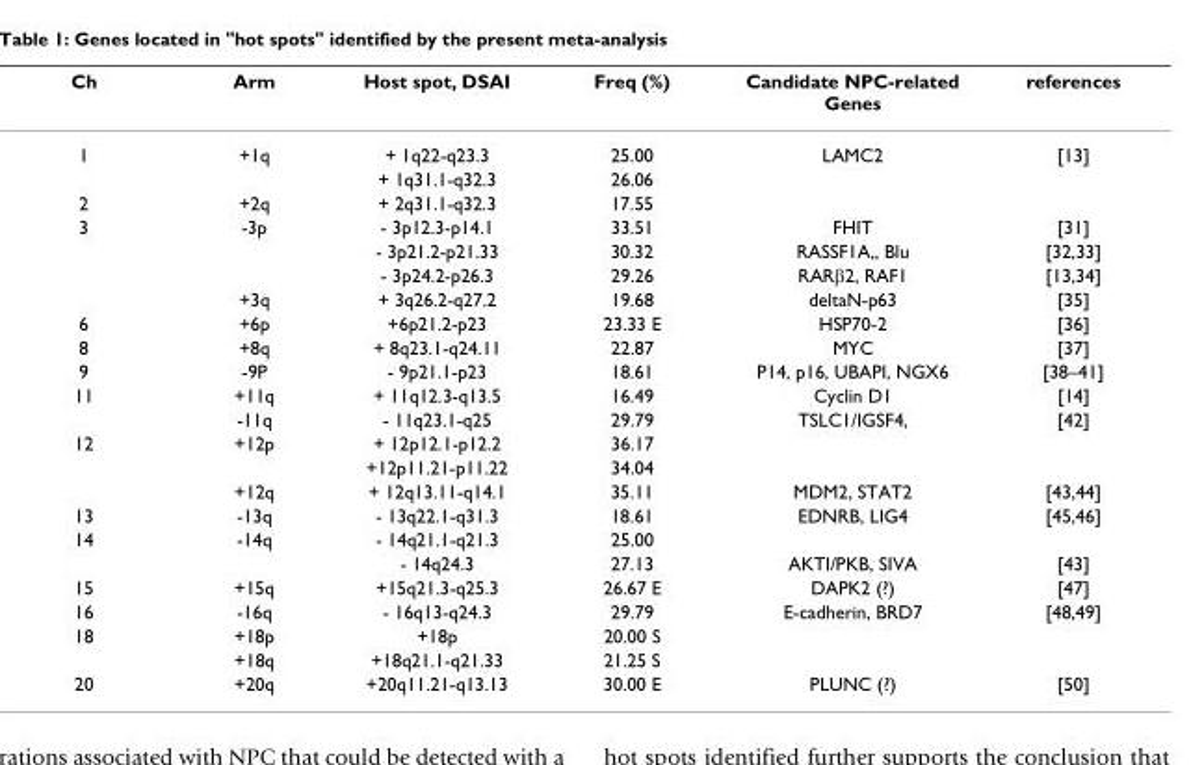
<table><thead><tr><td>Ch</td><td>Arm</td><td>Host spot, DSAI</td><td>Freq (%)</td><td>Candidate NPC-related Genes</td><td>references</td></tr></thead><tbody><tr><td rowspan="2">1</td><td>+1q</td><td>+ 1q22-q23.3</td><td>25.00</td><td>LAMC2</td><td>[13]</td></tr><tr><td></td><td>+ 1q31.1-q32.3</td><td>26.06</td><td></td><td></td></tr><tr><td>2</td><td>+2q</td><td>+ 2q31.1-q32.3</td><td>17.55</td><td></td><td></td></tr><tr><td rowspan="4">3</td><td>-3p</td><td>- 3p12.3-p14.1</td><td>33.51</td><td>FHIT</td><td>[31]</td></tr><tr><td></td><td>- 3p21.2-p21.33</td><td>30.32</td><td>RASSF1A,, Blu</td><td>[32,33]</td></tr><tr><td></td><td>- 3p24.2-p26.3</td><td>29.26</td><td>RARβ2, RAF1</td><td>[13,34]</td></tr><tr><td>+3q</td><td>+ 3q26.2-q27.2</td><td>19.68</td><td>deltaN-p63</td><td>[35]</td></tr><tr><td>6</td><td>+6p</td><td>+6p21.2-p23</td><td>23.33 E</td><td>HSP70-2</td><td>[36]</td></tr><tr><td>8</td><td>+8q</td><td>+ 8q23.1-q24.11</td><td>22.87</td><td>MYC</td><td>[37]</td></tr><tr><td>9</td><td>-9P</td><td>- 9p21.1-p23</td><td>18.61</td><td>P14, p16, UBAPI, NGX6</td><td>[38–41]</td></tr><tr><td rowspan="2">11</td><td>+11q</td><td>+ 11q12.3-q13.5</td><td>16.49</td><td>Cyclin D1</td><td>[14]</td></tr><tr><td>-11q</td><td>- 11q23.1-q25</td><td>29.79</td><td>TSLC1/IGSF4,</td><td>[42]</td></tr><tr><td rowspan="3">12</td><td>+12p</td><td>+ 12p12.1-p12.2</td><td>36.17</td><td></td><td></td></tr><tr><td></td><td>+12p11.21-p11.22</td><td>34.04</td><td></td><td></td></tr><tr><td>+12q</td><td>+ 12q13.11-q14.1</td><td>35.11</td><td>MDM2, STAT2</td><td>[43,44]</td></tr><tr><td>13</td><td>-13q</td><td>- 13q22.1-q31.3</td><td>18.61</td><td>EDNRB, LIG4</td><td>[45,46]</td></tr><tr><td rowspan="2">14</td><td>-14q</td><td>- 14q21.1-q21.3</td><td>25.00</td><td></td><td></td></tr><tr><td></td><td>- 14q24.3</td><td>27.13</td><td>AKTI/PKB, SIVA</td><td>[43]</td></tr><tr><td>15</td><td>+15q</td><td>+15q21.3-q25.3</td><td>26.67 E</td><td>DAPK2 (?)</td><td>[47]</td></tr><tr><td>16</td><td>-16q</td><td>- 16q13-q24.3</td><td>29.79</td><td>E-cadherin, BRD7</td><td>[48,49]</td></tr><tr><td rowspan="2">18</td><td>+18p</td><td>+18p</td><td>20.00 S</td><td></td><td></td></tr><tr><td>+18q</td><td>+18q21.1-q21.33</td><td>21.25 S</td><td></td><td></td></tr><tr><td>20</td><td>+20q</td><td>+20q11.21-q13.13</td><td>30.00 E</td><td>PLUNC (?)</td><td>[50]</td></tr></tbody></table>